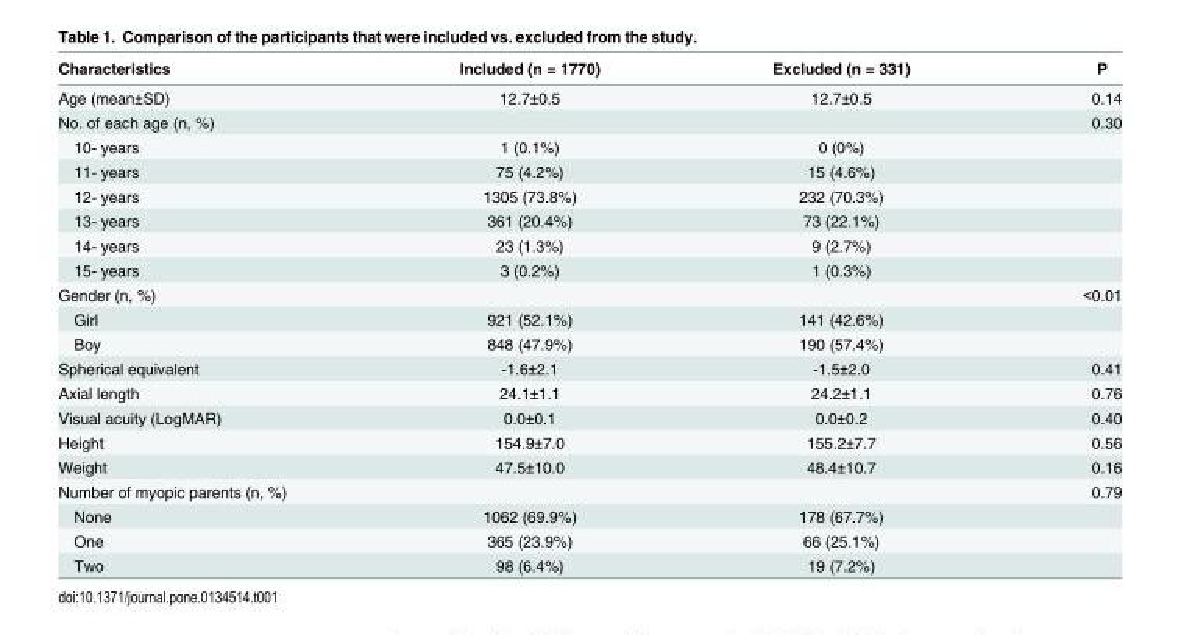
<table><thead><tr><td>Characteristics</td><td>Included (n = 1770)</td><td>Excluded (n = 331)</td><td>P</td></tr></thead><tbody><tr><td>Age (mean±SD)</td><td>12.7±0.5</td><td>12.7±0.5</td><td>0.14</td></tr><tr><td>No. of each age (n, %)</td><td></td><td></td><td>0.30</td></tr><tr><td>10- years</td><td>1 (0.1%)</td><td>0 (0%)</td><td></td></tr><tr><td>11- years</td><td>75 (4.2%)</td><td>15 (4.6%)</td><td></td></tr><tr><td>12- years</td><td>1305 (73.8%)</td><td>232 (70.3%)</td><td></td></tr><tr><td>13- years</td><td>361 (20.4%)</td><td>73 (22.1%)</td><td></td></tr><tr><td>14- years</td><td>23 (1.3%)</td><td>9 (2.7%)</td><td></td></tr><tr><td>15- years</td><td>3 (0.2%)</td><td>1 (0.3%)</td><td></td></tr><tr><td>Gender (n, %)</td><td></td><td></td><td>&lt;0.01</td></tr><tr><td>Girl</td><td>921 (52.1%)</td><td>141 (42.6%)</td><td></td></tr><tr><td>Boy</td><td>848 (47.9%)</td><td>190 (57.4%)</td><td></td></tr><tr><td>Spherical equivalent</td><td>-1.6±2.1</td><td>-1.5±2.0</td><td>0.41</td></tr><tr><td>Axial length</td><td>24.1±1.1</td><td>24.2±1.1</td><td>0.76</td></tr><tr><td>Visual acuity (LogMAR)</td><td>0.0±0.1</td><td>0.0±0.2</td><td>0.40</td></tr><tr><td>Height</td><td>154.9±7.0</td><td>155.2±7.7</td><td>0.56</td></tr><tr><td>Weight</td><td>47.5±10.0</td><td>48.4±10.7</td><td>0.16</td></tr><tr><td>Number of myopic parents (n, %)</td><td></td><td></td><td>0.79</td></tr><tr><td>None</td><td>1062 (69.9%)</td><td>178 (67.7%)</td><td></td></tr><tr><td>One</td><td>365 (23.9%)</td><td>66 (25.1%)</td><td></td></tr><tr><td>Two</td><td>98 (6.4%)</td><td>19 (7.2%)</td><td></td></tr></tbody></table>